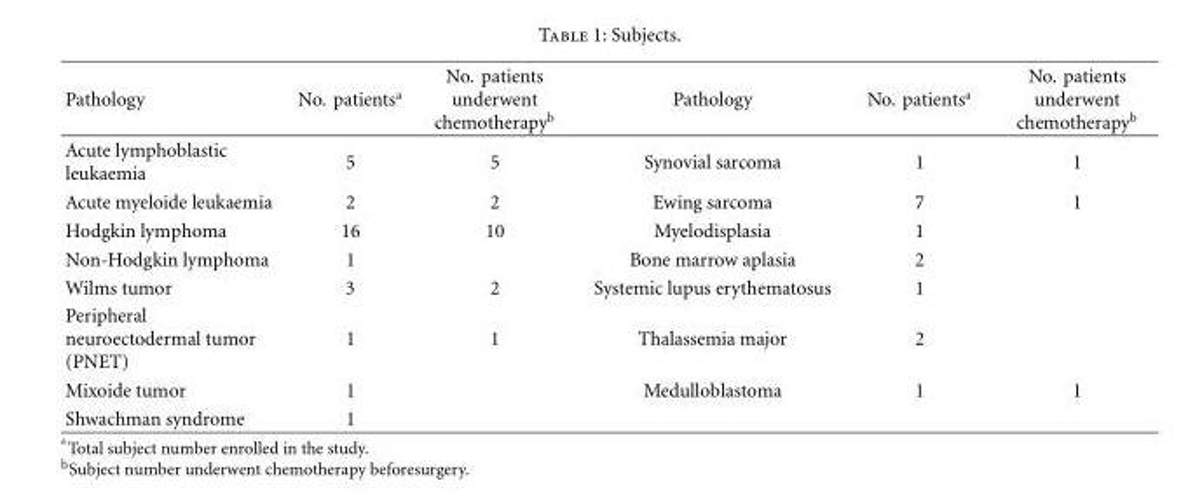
<table><thead><tr><td>Pathology</td><td>No. patients<sup>a</sup></td><td>No. patients underwent chemotherapy<sup>b</sup></td><td>Pathology</td><td>No. patients<sup>a</sup></td><td>No. patients underwent chemotherapy<sup>b</sup></td></tr></thead><tbody><tr><td>Acute lymphoblastic leukaemia</td><td>5</td><td>5</td><td>Synovial sarcoma</td><td>1</td><td>1</td></tr><tr><td>Acute myeloide leukaemia</td><td>2</td><td>2</td><td>Ewing sarcoma</td><td>7</td><td>1</td></tr><tr><td>Hodgkin lymphoma</td><td>16</td><td>10</td><td>Myelodisplasia</td><td>1</td><td></td></tr><tr><td>Non-Hodgkin lymphoma</td><td>1</td><td></td><td>Bone marrow aplasia</td><td>2</td><td></td></tr><tr><td>Wilms tumor</td><td>3</td><td>2</td><td>Systemic lupus erythematosus</td><td>1</td><td></td></tr><tr><td>Peripheral neuroectodermal tumor (PNET)</td><td>1</td><td>1</td><td>Thalassemia major</td><td>2</td><td></td></tr><tr><td>Mixoide tumor</td><td>1</td><td></td><td>Medulloblastoma</td><td>1</td><td>1</td></tr><tr><td>Shwachman syndrome</td><td>1</td><td></td><td></td><td></td><td></td></tr></tbody></table>